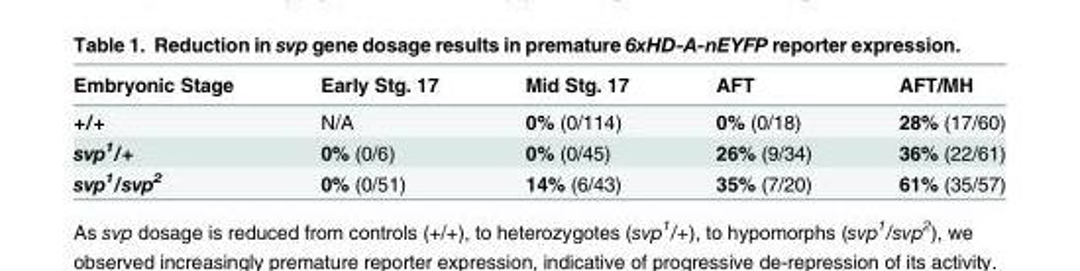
<table><thead><tr><td>Embryonic Stage</td><td>Early Stg. 17</td><td>Mid Stg. 17</td><td>AFT</td><td>AFT/MH</td></tr></thead><tbody><tr><td>+/+</td><td>N/A</td><td>0% (0/114)</td><td>0% (0/18)</td><td>28% (17/60)</td></tr><tr><td>svp<sup>1</sup>/+</td><td>0% (0/6)</td><td>0% (0/45)</td><td>26% (9/34)</td><td>36% (22/61)</td></tr><tr><td>svp<sup>1</sup>/svp<sup>2</sup></td><td>0% (0/51)</td><td>14% (6/43)</td><td>35% (7/20)</td><td>61% (35/57)</td></tr></tbody></table>